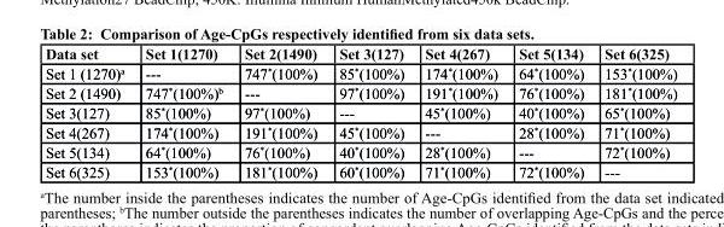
<table><thead><tr><td>Data set</td><td>Set 1(1270)</td><td>Set 2(1490)</td><td>Set 3(127)</td><td>Set 4(267)</td><td>Set 5(134)</td><td>Set 6(325)</td></tr></thead><tbody><tr><td>Set 1 (1270)<sup>a</sup></td><td>---</td><td>747*(100%)</td><td>85*(100%)</td><td>174*(100%)</td><td>64*(100%)</td><td>153*(100%)</td></tr><tr><td>Set 2 (1490)</td><td>747*(100%)<sup>b</sup></td><td>---</td><td>97*(100%)</td><td>191*(100%)</td><td>76*(100%)</td><td>181*(100%)</td></tr><tr><td>Set 3(127)</td><td>85*(100%)</td><td>97*(100%)</td><td>---</td><td>45*(100%)</td><td>40*(100%)</td><td>65*(100%)</td></tr><tr><td>Set 4(267)</td><td>174*(100%)</td><td>191*(100%)</td><td>45*(100%)</td><td>---</td><td>28*(100%)</td><td>71*(100%)</td></tr><tr><td>Set 5(134)</td><td>64*(100%)</td><td>76*(100%)</td><td>40*(100%)</td><td>28*(100%)</td><td>---</td><td>72*(100%)</td></tr><tr><td>Set 6(325)</td><td>153*(100%)</td><td>181*(100%)</td><td>60*(100%)</td><td>71*(100%)</td><td>72*(100%)</td><td>---</td></tr></tbody></table>